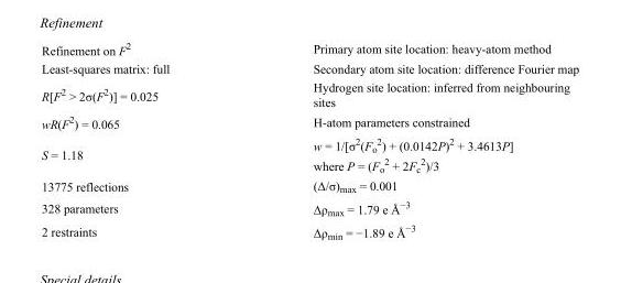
<table><tbody><tr><td>Refinement on F<sup>2</sup></td><td>Primary atom site location: heavy-atom method</td></tr><tr><td>Least-squares matrix: full</td><td>Secondary atom site location: difference Fourier map</td></tr><tr><td>R[F<sup>2</sup> &gt; 2σ(F<sup>2</sup>)] = 0.025</td><td>Hydrogen site location: inferred from neighbouring sites</td></tr><tr><td>wR(F<sup>2</sup>) = 0.065</td><td>H-atom parameters constrained</td></tr><tr><td>S = 1.18</td><td>w = 1/[σ<sup>2</sup>(F<sub>o</sub> <sup>2</sup>) + (0.0142P)<sup>2</sup> + 3.4613P] where P = (F<sub>o</sub> <sup>2</sup> + 2F<sub>c</sub> <sup>2</sup>)/3</td></tr><tr><td>13775 reflections</td><td>(Δ/σ)<sub>max</sub> = 0.001</td></tr><tr><td>328 parameters</td><td>Δρ<sub>max</sub> = 1.79 e Å<sup>−3</sup></td></tr><tr><td>2 restraints</td><td>Δρ<sub>min</sub> = −1.89 e Å<sup>−3</sup></td></tr></tbody></table>